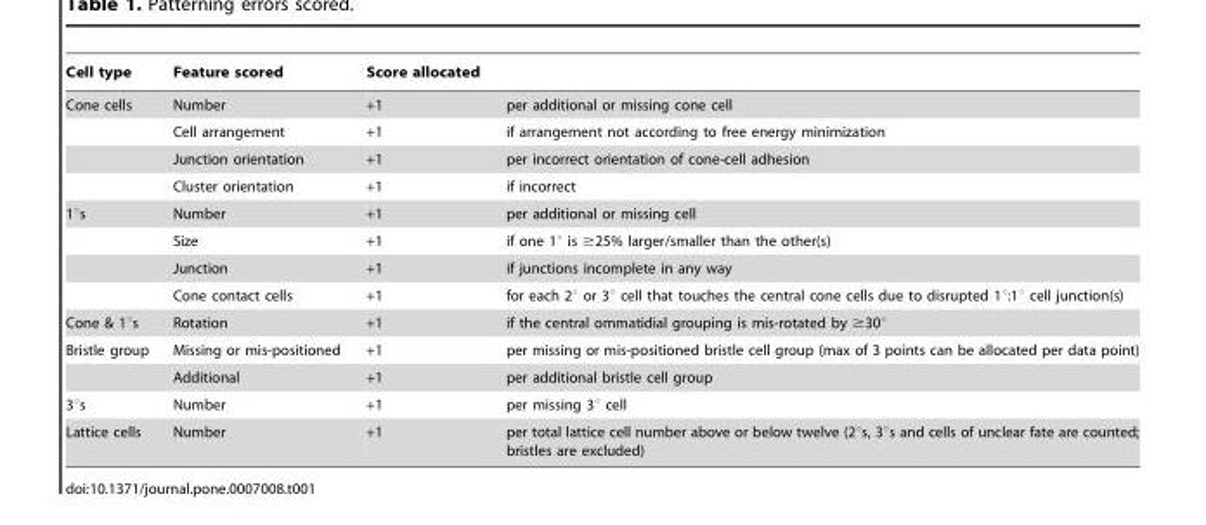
<table><thead><tr><td rowspan="2">Cell type Cone cells</td><td rowspan="2">Feature scored Number</td><td colspan="2">Score allocated</td></tr><tr><td>+1</td><td>per additional or missing cone cell</td></tr></thead><tbody><tr><td></td><td>Cell arrangement</td><td>+1</td><td>if arrangement not according to free energy minimization</td></tr><tr><td></td><td>Junction orientation</td><td>+1</td><td>per incorrect orientation of cone-cell adhesion</td></tr><tr><td></td><td>Cluster orientation</td><td>+1</td><td>if incorrect</td></tr><tr><td rowspan="4">1°s</td><td>Number</td><td>+1</td><td>per additional or missing cell</td></tr><tr><td>Size</td><td>+1</td><td>if one 1° is ≥25% larger/smaller than the other(s)</td></tr><tr><td>Junction</td><td>+1</td><td>if junctions incomplete in any way</td></tr><tr><td>Cone contact cells</td><td>+1</td><td>for each 2° or 3° cell that touches the central cone cells due to disrupted 1°:1° cell junction(s)</td></tr><tr><td>Cone &amp; 1°s</td><td>Rotation</td><td>+1</td><td>if the central ommatidial grouping is mis-rotated by ≥30°</td></tr><tr><td rowspan="2">Bristle group</td><td>Missing or mis-positioned</td><td>+1</td><td>per missing or mis-positioned bristle cell group (max of 3 points can be allocated per data point)</td></tr><tr><td>Additional</td><td>+1</td><td>per additional bristle cell group</td></tr><tr><td>3°s</td><td>Number</td><td>+1</td><td>per missing 3° cell</td></tr><tr><td>Lattice cells</td><td>Number</td><td>+1</td><td>per total lattice cell number above or below twelve (2°s, 3°s and cells of unclear fate are counted; bristles are excluded)</td></tr></tbody></table>